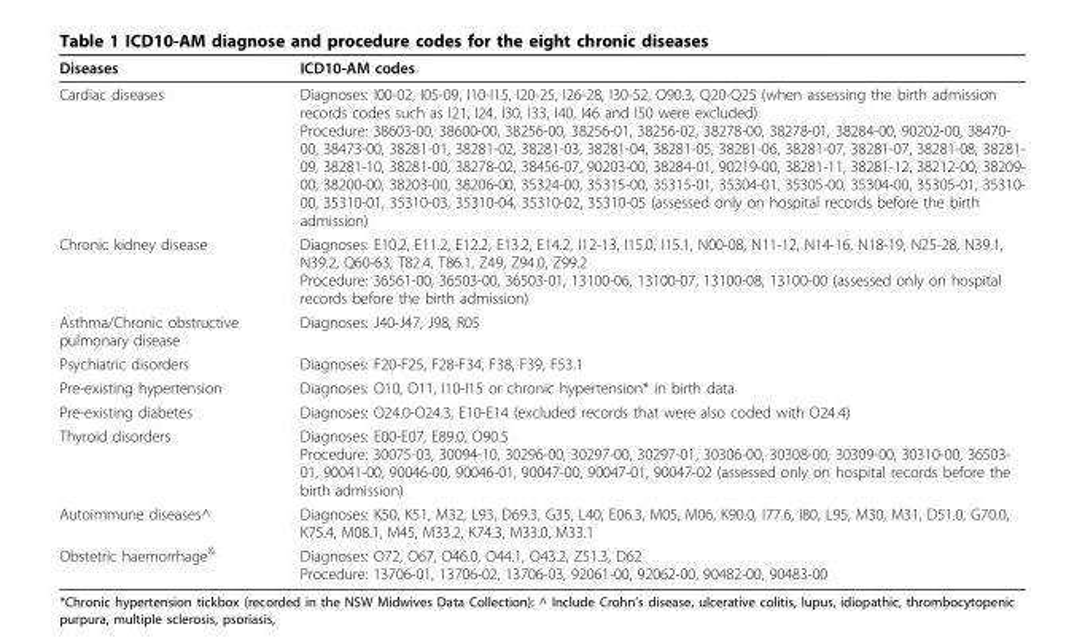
<table><thead><tr><td>Diseases</td><td>ICD10-AM codes</td></tr></thead><tbody><tr><td>Cardiac diseases</td><td>Diagnoses: I00-02, I05-09, I10-I15, I20-25, I26-28, I30-52, O90.3, Q20-Q25 (when assessing the birth admission records codes such as I21, I24, I30, I33, I40, I46 and I50 were excluded) Procedure: 38603-00, 38600-00, 38256-00, 38256-01, 38256-02, 38278-00, 38278-01, 38284-00, 90202-00, 38470- 00, 38473-00, 38281-01, 38281-02, 38281-03, 38281-04, 38281-05, 38281-06, 38281-07, 38281-07, 38281-08, 38281- 09, 38281-10, 38281-00, 38278-02, 38456-07, 90203-00, 38284-01, 90219-00, 38281-11, 38281-12, 38212-00, 38209- 00, 38200-00, 38203-00, 38206-00, 35324-00, 35315-00, 35315-01, 35304-01, 35305-00, 35304-00, 35305-01, 35310- 00, 35310-01, 35310-03, 35310-04, 35310-02, 35310-05 (assessed only on hospital records before the birth admission)</td></tr><tr><td>Chronic kidney disease</td><td>Diagnoses: E10.2, E11.2, E12.2, E13.2, E14.2, I12-13, I15.0, I15.1, N00-08, N11-12, N14-16, N18-19, N25-28, N39.1, N39.2, Q60-63, T82.4, T86.1, Z49, Z94.0, Z99.2 Procedure: 36561-00, 36503-00, 36503-01, 13100-06, 13100-07, 13100-08, 13100-00 (assessed only on hospital records before the birth admission)</td></tr><tr><td>Asthma/Chronic obstructive pulmonary disease</td><td>Diagnoses: J40-J47, J98, R05</td></tr><tr><td>Psychiatric disorders</td><td>Diagnoses: F20-F25, F28-F34, F38, F39, F53.1</td></tr><tr><td>Pre-existing hypertension</td><td>Diagnoses: O10, O11, I10-I15 or chronic hypertension* in birth data</td></tr><tr><td>Pre-existing diabetes</td><td>Diagnoses: O24.0-O24.3, E10-E14 (excluded records that were also coded with O24.4)</td></tr><tr><td>Thyroid disorders</td><td>Diagnoses: E00-E07, E89.0, O90.5 Procedure: 30075-03, 30094-10, 30296-00, 30297-00, 30297-01, 30306-00, 30308-00, 30309-00, 30310-00, 36503- 01, 90041-00, 90046-00, 90046-01, 90047-00, 90047-01, 90047-02 (assessed only on hospital records before the birth admission)</td></tr><tr><td>Autoimmune diseases^</td><td>Diagnoses: K50, K51, M32, L93, D69.3, G35, L40, E06.3, M05, M06, K90.0, I77.6, I80, L95, M30, M31, D51.0, G70.0, K75.4, M08.1, M45, M33.2, K74.3, M33.0, M33.1</td></tr><tr><td>Obstetric haemorrhage<sup>&amp;</sup></td><td>Diagnoses: O72, O67, O46.0, O44.1, O43.2, Z51.3, D62 Procedure: 13706-01, 13706-02, 13706-03, 92061-00, 92062-00, 90482-00, 90483-00</td></tr></tbody></table>